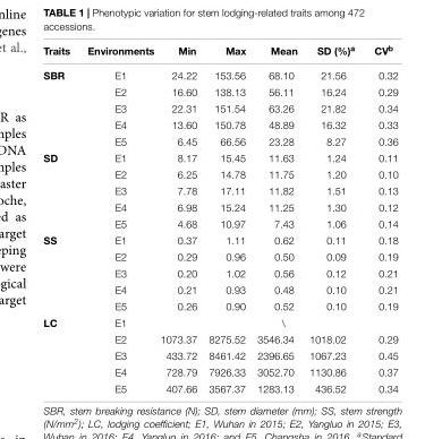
<table><thead><tr><td>Traits</td><td>Environments</td><td>Min</td><td>Max</td><td>Mean</td><td>SD (%)<sup>a</sup></td><td>CV<sup>b</sup></td></tr></thead><tbody><tr><td rowspan="5">SBR</td><td>E1</td><td>24.22</td><td>153.56</td><td>68.10</td><td>21.56</td><td>0.32</td></tr><tr><td>E2</td><td>16.60</td><td>138.13</td><td>56.11</td><td>16.24</td><td>0.29</td></tr><tr><td>E3</td><td>22.31</td><td>151.54</td><td>63.26</td><td>21.82</td><td>0.34</td></tr><tr><td>E4</td><td>13.60</td><td>150.78</td><td>48.89</td><td>16.32</td><td>0.33</td></tr><tr><td>E5</td><td>6.45</td><td>66.56</td><td>23.28</td><td>8.27</td><td>0.36</td></tr><tr><td rowspan="5">SD</td><td>E1</td><td>8.17</td><td>15.45</td><td>11.63</td><td>1.24</td><td>0.11</td></tr><tr><td>E2</td><td>6.25</td><td>14.78</td><td>11.75</td><td>1.20</td><td>0.10</td></tr><tr><td>E3</td><td>7.78</td><td>17.11</td><td>11.82</td><td>1.51</td><td>0.13</td></tr><tr><td>E4</td><td>6.98</td><td>15.24</td><td>11.25</td><td>1.30</td><td>0.12</td></tr><tr><td>E5</td><td>4.68</td><td>10.97</td><td>7.43</td><td>1.06</td><td>0.14</td></tr><tr><td rowspan="5">SS</td><td>E1</td><td>0.37</td><td>1.11</td><td>0.62</td><td>0.11</td><td>0.18</td></tr><tr><td>E2</td><td>0.29</td><td>0.96</td><td>0.50</td><td>0.09</td><td>0.19</td></tr><tr><td>E3</td><td>0.20</td><td>1.02</td><td>0.56</td><td>0.12</td><td>0.21</td></tr><tr><td>E4</td><td>0.21</td><td>0.93</td><td>0.48</td><td>0.10</td><td>0.21</td></tr><tr><td>E5</td><td>0.26</td><td>0.90</td><td>0.52</td><td>0.10</td><td>0.19</td></tr><tr><td rowspan="5">LC</td><td>E1</td><td colspan="5">\</td></tr><tr><td>E2</td><td>1073.37</td><td>8275.52</td><td>3546.34</td><td>1018.02</td><td>0.29</td></tr><tr><td>E3</td><td>433.72</td><td>8461.42</td><td>2396.65</td><td>1067.23</td><td>0.45</td></tr><tr><td>E4</td><td>728.79</td><td>7926.33</td><td>3052.70</td><td>1130.86</td><td>0.37</td></tr><tr><td>E5</td><td>407.66</td><td>3567.37</td><td>1283.13</td><td>436.52</td><td>0.34</td></tr></tbody></table>